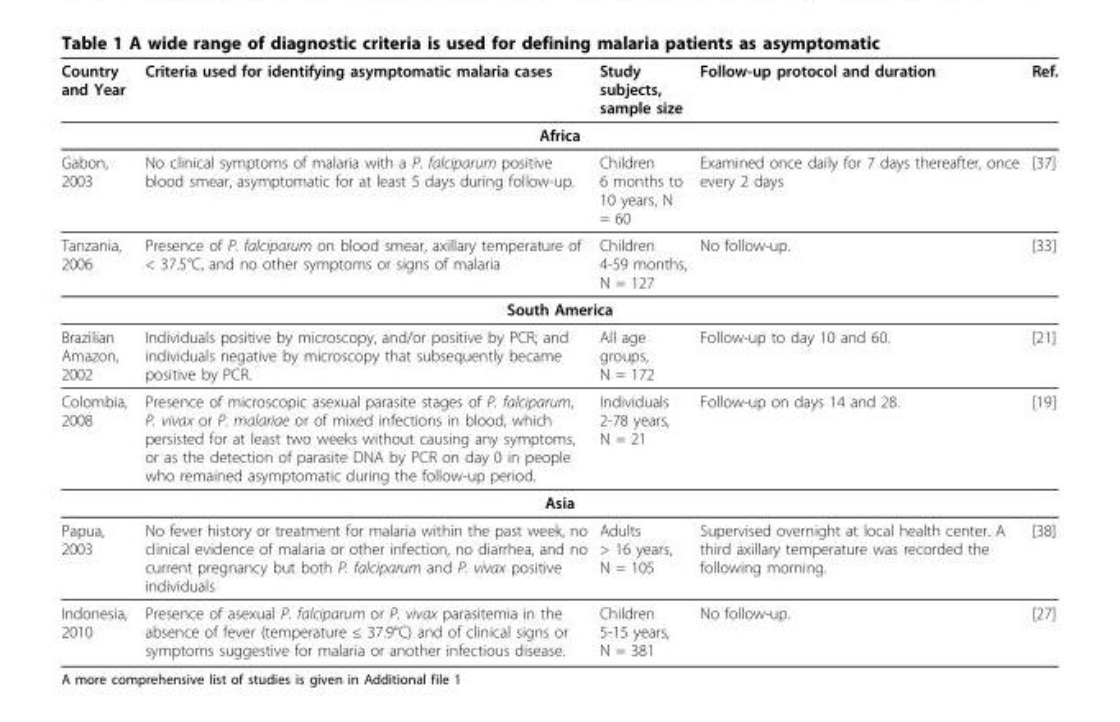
<table><thead><tr><td>Country and Year</td><td>Criteria used for identifying asymptomatic malaria cases</td><td>Study subjects, sample size</td><td>Follow-up protocol and duration</td><td>Ref.</td></tr></thead><tbody><tr><td colspan="5">Africa</td></tr><tr><td>Gabon, 2003</td><td>No clinical symptoms of malaria with a P. falciparum positive blood smear, asymptomatic for at least 5 days during follow-up.</td><td>Children 6 months to 10 years, N = 60</td><td>Examined once daily for 7 days thereafter, once every 2 days</td><td>[37]</td></tr><tr><td>Tanzania, 2006</td><td>Presence of P. falciparum on blood smear, axillary temperature of &lt; 37.5°C, and no other symptoms or signs of malaria</td><td>Children 4-59 months, N = 127</td><td>No follow-up.</td><td>[33]</td></tr><tr><td colspan="5">South America</td></tr><tr><td>Brazilian Amazon, 2002</td><td>Individuals positive by microscopy, and/or positive by PCR; and individuals negative by microscopy that subsequently became positive by PCR.</td><td>All age groups, N = 172</td><td>Follow-up to day 10 and 60.</td><td>[21]</td></tr><tr><td>Colombia, 2008</td><td>Presence of microscopic asexual parasite stages of P. falciparum, P. vivax or P. malariae or of mixed infections in blood, which persisted for at least two weeks without causing any symptoms, or as the detection of parasite DNA by PCR on day 0 in people who remained asymptomatic during the follow-up period.</td><td>Individuals 2-78 years, N = 21</td><td>Follow-up on days 14 and 28.</td><td>[19]</td></tr><tr><td colspan="5">Asia</td></tr><tr><td>Papua, 2003</td><td>No fever history or treatment for malaria within the past week, no clinical evidence of malaria or other infection, no diarrhea, and no current pregnancy but both P. falciparum and P. vivax positive individuals</td><td>Adults &gt; 16 years, N = 105</td><td>Supervised overnight at local health center. A third axillary temperature was recorded the following morning.</td><td>[38]</td></tr><tr><td>Indonesia, 2010</td><td>Presence of asexual P. falciparum or P. vivax parasitemia in the absence of fever (temperature ≤ 37.9°C) and of clinical signs or symptoms suggestive for malaria or another infectious disease.</td><td>Children 5-15 years, N = 381</td><td>No follow-up.</td><td>[27]</td></tr></tbody></table>